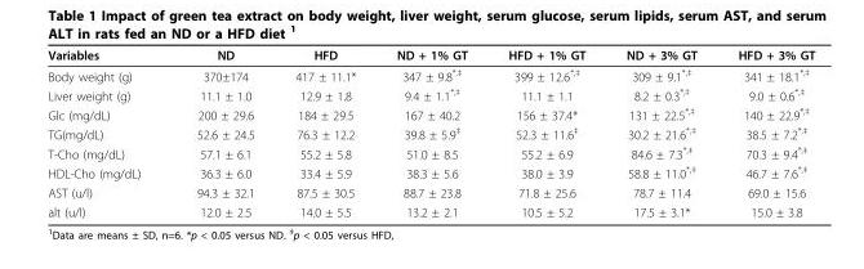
<table><thead><tr><td>Variables</td><td>ND</td><td>HFD</td><td>ND + 1% GT</td><td>HFD + 1% GT</td><td>ND + 3% GT</td><td>HFD + 3% GT</td></tr></thead><tbody><tr><td>Body weight (g)</td><td>370±174</td><td>417 ± 11.1*</td><td>347 ± 9.8<sup>*,‡</sup></td><td>399 ± 12.6<sup>*,‡</sup></td><td>309 ± 9.1<sup>*,‡</sup></td><td>341 ± 18.1<sup>*,‡</sup></td></tr><tr><td>Liver weight (g)</td><td>11.1 ± 1.0</td><td>12.9 ± 1.8</td><td>9.4 ± 1.1<sup>*,‡</sup></td><td>11.1 ± 1.1</td><td>8.2 ± 0.3<sup>*,‡</sup></td><td>9.0 ± 0.6<sup>*,‡</sup></td></tr><tr><td>Glc (mg/dL)</td><td>200 ± 29.6</td><td>184 ± 29.5</td><td>167 ± 40.2</td><td>156 ± 37.4*</td><td>131 ± 22.5<sup>*,‡</sup></td><td>140 ± 22.9<sup>*,‡</sup></td></tr><tr><td>TG(mg/dL)</td><td>52.6 ± 24.5</td><td>76.3 ± 12.2</td><td>39.8 ± 5.9<sup>‡</sup></td><td>52.3 ± 11.6<sup>‡</sup></td><td>30.2 ± 21.6<sup>*,‡</sup></td><td>38.5 ± 7.2<sup>*,‡</sup></td></tr><tr><td>T-Cho (mg/dL)</td><td>57.1 ± 6.1</td><td>55.2 ± 5.8</td><td>51.0 ± 8.5</td><td>55.2 ± 6.9</td><td>84.6 ± 7.3<sup>*,‡</sup></td><td>70.3 ± 9.4<sup>*,‡</sup></td></tr><tr><td>HDL-Cho (mg/dL)</td><td>36.3 ± 6.0</td><td>33.4 ± 5.9</td><td>38.3 ± 5.6</td><td>38.0 ± 3.9</td><td>58.8 ± 11.0<sup>*,‡</sup></td><td>46.7 ± 7.6<sup>*,‡</sup></td></tr><tr><td>AST (u/l)</td><td>94.3 ± 32.1</td><td>87.5 ± 30.5</td><td>88.7 ± 23.8</td><td>71.8 ± 25.6</td><td>78.7 ± 11.4</td><td>69.0 ± 15.6</td></tr><tr><td>alt (u/l)</td><td>12.0 ± 2.5</td><td>14.0 ± 5.5</td><td>13.2 ± 2.1</td><td>10.5 ± 5.2</td><td>17.5 ± 3.1*</td><td>15.0 ± 3.8</td></tr></tbody></table>